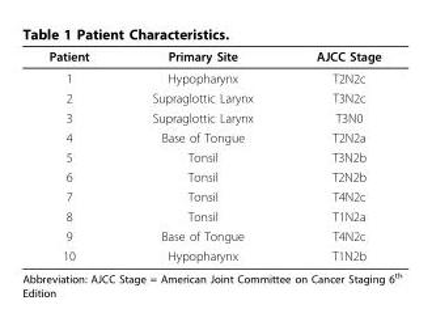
<table><thead><tr><td>Patient</td><td>Primary Site</td><td>AJCC Stage</td></tr></thead><tbody><tr><td>1</td><td>Hypopharynx</td><td>T2N2c</td></tr><tr><td>2</td><td>Supraglottic Larynx</td><td>T3N2c</td></tr><tr><td>3</td><td>Supraglottic Larynx</td><td>T3N0</td></tr><tr><td>4</td><td>Base of Tongue</td><td>T2N2a</td></tr><tr><td>5</td><td>Tonsil</td><td>T3N2b</td></tr><tr><td>6</td><td>Tonsil</td><td>T2N2b</td></tr><tr><td>7</td><td>Tonsil</td><td>T4N2c</td></tr><tr><td>8</td><td>Tonsil</td><td>T1N2a</td></tr><tr><td>9</td><td>Base of Tongue</td><td>T4N2c</td></tr><tr><td>10</td><td>Hypopharynx</td><td>T1N2b</td></tr></tbody></table>